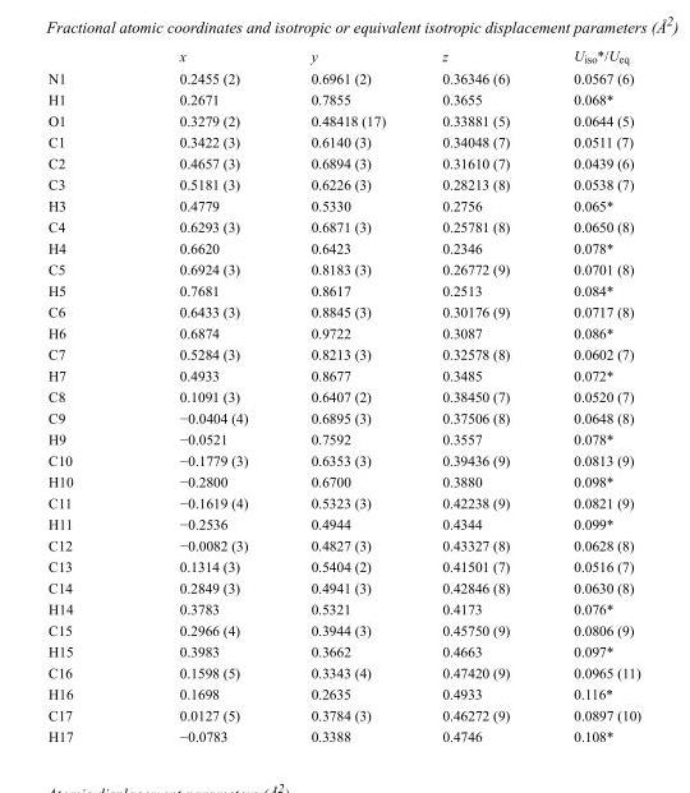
<table><thead><tr><td></td><td>x</td><td>y</td><td>z</td><td>U<sub>iso</sub>*/U<sub>eq</sub></td></tr></thead><tbody><tr><td>N1</td><td>0.2455 (2)</td><td>0.6961 (2)</td><td>0.36346 (6)</td><td>0.0567 (6)</td></tr><tr><td>H1</td><td>0.2671</td><td>0.7855</td><td>0.3655</td><td>0.068*</td></tr><tr><td>O1</td><td>0.3279 (2)</td><td>0.48418 (17)</td><td>0.33881 (5)</td><td>0.0644 (5)</td></tr><tr><td>C1</td><td>0.3422 (3)</td><td>0.6140 (3)</td><td>0.34048 (7)</td><td>0.0511 (7)</td></tr><tr><td>C2</td><td>0.4657 (3)</td><td>0.6894 (3)</td><td>0.31610 (7)</td><td>0.0439 (6)</td></tr><tr><td>C3</td><td>0.5181 (3)</td><td>0.6226 (3)</td><td>0.28213 (8)</td><td>0.0538 (7)</td></tr><tr><td>H3</td><td>0.4779</td><td>0.5330</td><td>0.2756</td><td>0.065*</td></tr><tr><td>C4</td><td>0.6293 (3)</td><td>0.6871 (3)</td><td>0.25781 (8)</td><td>0.0650 (8)</td></tr><tr><td>H4</td><td>0.6620</td><td>0.6423</td><td>0.2346</td><td>0.078*</td></tr><tr><td>C5</td><td>0.6924 (3)</td><td>0.8183 (3)</td><td>0.26772 (9)</td><td>0.0701 (8)</td></tr><tr><td>H5</td><td>0.7681</td><td>0.8617</td><td>0.2513</td><td>0.084*</td></tr><tr><td>C6</td><td>0.6433 (3)</td><td>0.8845 (3)</td><td>0.30176 (9)</td><td>0.0717 (8)</td></tr><tr><td>H6</td><td>0.6874</td><td>0.9722</td><td>0.3087</td><td>0.086*</td></tr><tr><td>C7</td><td>0.5284 (3)</td><td>0.8213 (3)</td><td>0.32578 (8)</td><td>0.0602 (7)</td></tr><tr><td>H7</td><td>0.4933</td><td>0.8677</td><td>0.3485</td><td>0.072*</td></tr><tr><td>C8</td><td>0.1091 (3)</td><td>0.6407 (2)</td><td>0.38450 (7)</td><td>0.0520 (7)</td></tr><tr><td>C9</td><td>−0.0404 (4)</td><td>0.6895 (3)</td><td>0.37506 (8)</td><td>0.0648 (8)</td></tr><tr><td>H9</td><td>−0.0521</td><td>0.7592</td><td>0.3557</td><td>0.078*</td></tr><tr><td>C10</td><td>−0.1779 (3)</td><td>0.6353 (3)</td><td>0.39436 (9)</td><td>0.0813 (9)</td></tr><tr><td>H10</td><td>−0.2800</td><td>0.6700</td><td>0.3880</td><td>0.098*</td></tr><tr><td>C11</td><td>−0.1619 (4)</td><td>0.5323 (3)</td><td>0.42238 (9)</td><td>0.0821 (9)</td></tr><tr><td>H11</td><td>−0.2536</td><td>0.4944</td><td>0.4344</td><td>0.099*</td></tr><tr><td>C12</td><td>−0.0082 (3)</td><td>0.4827 (3)</td><td>0.43327 (8)</td><td>0.0628 (8)</td></tr><tr><td>C13</td><td>0.1314 (3)</td><td>0.5404 (2)</td><td>0.41501 (7)</td><td>0.0516 (7)</td></tr><tr><td>C14</td><td>0.2849 (3)</td><td>0.4941 (3)</td><td>0.42846 (8)</td><td>0.0630 (8)</td></tr><tr><td>H14</td><td>0.3783</td><td>0.5321</td><td>0.4173</td><td>0.076*</td></tr><tr><td>C15</td><td>0.2966 (4)</td><td>0.3944 (3)</td><td>0.45750 (9)</td><td>0.0806 (9)</td></tr><tr><td>H15</td><td>0.3983</td><td>0.3662</td><td>0.4663</td><td>0.097*</td></tr><tr><td>C16</td><td>0.1598 (5)</td><td>0.3343 (4)</td><td>0.47420 (9)</td><td>0.0965 (11)</td></tr><tr><td>H16</td><td>0.1698</td><td>0.2635</td><td>0.4933</td><td>0.116*</td></tr><tr><td>C17</td><td>0.0127 (5)</td><td>0.3784 (3)</td><td>0.46272 (9)</td><td>0.0897 (10)</td></tr><tr><td>H17</td><td>−0.0783</td><td>0.3388</td><td>0.4746</td><td>0.108*</td></tr></tbody></table>